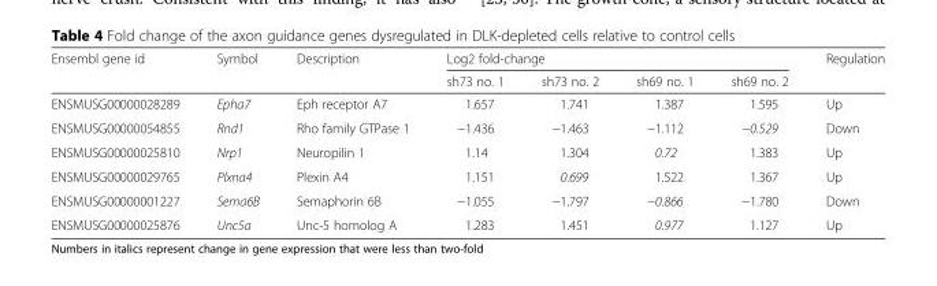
<table><thead><tr><td rowspan="2">Ensembl gene id</td><td rowspan="2">Symbol</td><td rowspan="2">Description</td><td colspan="4">Log2 fold-change</td><td rowspan="2">Regulation</td></tr><tr><td>sh73 no. 1</td><td>sh73 no. 2</td><td>sh69 no. 1</td><td>sh69 no. 2</td></tr></thead><tbody><tr><td>ENSMUSG00000028289</td><td>Epha7</td><td>Eph receptor A7</td><td>1.657</td><td>1.741</td><td>1.387</td><td>1.595</td><td>Up</td></tr><tr><td>ENSMUSG00000054855</td><td>Rnd1</td><td>Rho family GTPase 1</td><td>−1.436</td><td>−1.463</td><td>−1.112</td><td>−0.529</td><td>Down</td></tr><tr><td>ENSMUSG00000025810</td><td>Nrp1</td><td>Neuropilin 1</td><td>1.14</td><td>1.304</td><td>0.72</td><td>1.383</td><td>Up</td></tr><tr><td>ENSMUSG00000029765</td><td>Plxna4</td><td>Plexin A4</td><td>1.151</td><td>0.699</td><td>1.522</td><td>1.367</td><td>Up</td></tr><tr><td>ENSMUSG00000001227</td><td>Sema6B</td><td>Semaphorin 6B</td><td>−1.055</td><td>−1.797</td><td>−0.866</td><td>−1.780</td><td>Down</td></tr><tr><td>ENSMUSG00000025876</td><td>Unc5a</td><td>Unc-5 homolog A</td><td>1.283</td><td>1.451</td><td>0.977</td><td>1.127</td><td>Up</td></tr></tbody></table>